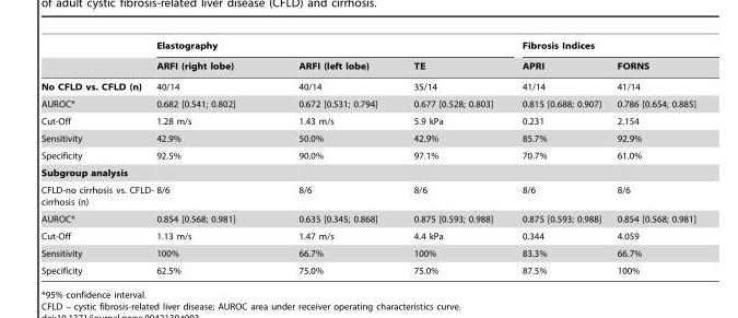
<table><thead><tr><td rowspan="2"></td><td colspan="3">Elastography</td><td colspan="2">Fibrosis Indices</td></tr><tr><td>ARFI (right lobe)</td><td>ARFI (left lobe)</td><td>TE</td><td>APRI</td><td>FORNS</td></tr></thead><tbody><tr><td>No CFLD vs. CFLD (n)</td><td>40/14</td><td>40/14</td><td>35/14</td><td>41/14</td><td>41/14</td></tr><tr><td>AUROC*</td><td>0.682 [0.541; 0.802]</td><td>0.672 [0.531; 0.794]</td><td>0.677 [0.528; 0.803]</td><td>0.815 [0.688; 0.907]</td><td>0.786 [0.654; 0.885]</td></tr><tr><td>Cut-Off</td><td>1.28 m/s</td><td>1.43 m/s</td><td>5.9 kPa</td><td>0.231</td><td>2.154</td></tr><tr><td>Sensitivity</td><td>42.9%</td><td>50.0%</td><td>42.9%</td><td>85.7%</td><td>92.9%</td></tr><tr><td>Specificity</td><td>92.5%</td><td>90.0%</td><td>97.1%</td><td>70.7%</td><td>61.0%</td></tr><tr><td colspan="6">Subgroup analysis</td></tr><tr><td>CFLD-no cirrhosis vs. CFLD- cirrhosis (n)</td><td>8/6</td><td>8/6</td><td>8/6</td><td>8/6</td><td>8/6</td></tr><tr><td>AUROC*</td><td>0.854 [0.568; 0.981]</td><td>0.635 [0.345; 0.868]</td><td>0.875 [0.593; 0.988]</td><td>0.875 [0.593; 0.988]</td><td>0.854 [0.568; 0.981]</td></tr><tr><td>Cut-Off</td><td>1.13 m/s</td><td>1.47 m/s</td><td>4.4 kPa</td><td>0.344</td><td>4.059</td></tr><tr><td>Sensitivity</td><td>100%</td><td>66.7%</td><td>100%</td><td>83.3%</td><td>66.7%</td></tr><tr><td>Specificity</td><td>62.5%</td><td>75.0%</td><td>75.0%</td><td>87.5%</td><td>100%</td></tr></tbody></table>